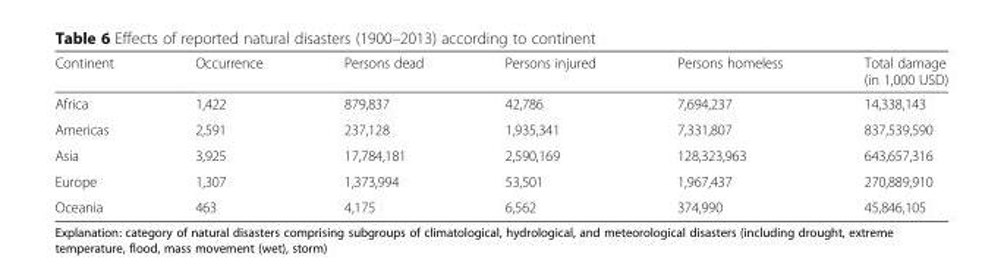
<table><thead><tr><td>Continent</td><td>Occurrence</td><td>Persons dead</td><td>Persons injured</td><td>Persons homeless</td><td>Total damage (in 1,000 USD)</td></tr></thead><tbody><tr><td>Africa</td><td>1,422</td><td>879,837</td><td>42,786</td><td>7,694,237</td><td>14,338,143</td></tr><tr><td>Americas</td><td>2,591</td><td>237,128</td><td>1,935,341</td><td>7,331,807</td><td>837,539,590</td></tr><tr><td>Asia</td><td>3,925</td><td>17,784,181</td><td>2,590,169</td><td>128,323,963</td><td>643,657,316</td></tr><tr><td>Europe</td><td>1,307</td><td>1,373,994</td><td>53,501</td><td>1,967,437</td><td>270,889,910</td></tr><tr><td>Oceania</td><td>463</td><td>4,175</td><td>6,562</td><td>374,990</td><td>45,846,105</td></tr></tbody></table>